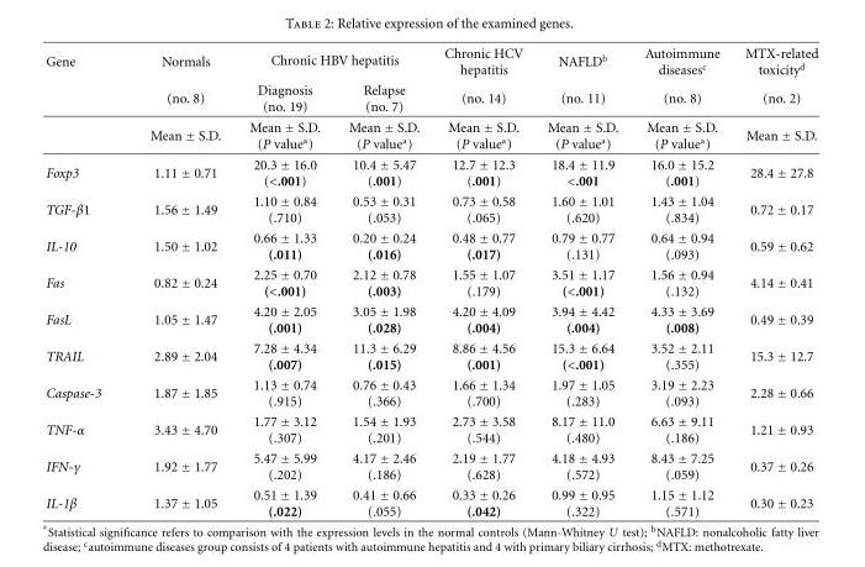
<table><thead><tr><td rowspan="2">Gene</td><td rowspan="2">Normals (no. 8)</td><td colspan="2">Chronic HBV hepatitis</td><td rowspan="2">Chronic HCV hepatitis (no. 14)</td><td rowspan="2">NAFLDb (no. 11)</td><td rowspan="2">Autoimmune diseasesc (no. 8)</td><td rowspan="2">MTX-related toxicityd (no. 2)</td></tr><tr><td>Diagnosis (no. 19)</td><td>Relapse (no. 7)</td></tr></thead><tbody><tr><td></td><td>Mean ± S.D.</td><td>Mean ± S.D. (P valuea)</td><td>Mean ± S.D. (P valuea)</td><td>Mean ± S.D. (P valuea)</td><td>Mean ± S.D. (P valuea)</td><td>Mean ± S.D. (P valuea)</td><td>Mean ± S.D.</td></tr><tr><td>Foxp3</td><td>1.11 ± 0.71</td><td>20.3 ± 16.0 (&lt;.001)</td><td>10.4 ± 5.47 (.001)</td><td>12.7 ± 12.3 (.001)</td><td>18.4 ± 11.9 &lt;.001</td><td>16.0 ± 15.2 (.001)</td><td>28.4 ± 27.8</td></tr><tr><td>TGF-β1</td><td>1.56 ± 1.49</td><td>1.10 ± 0.84 (.710)</td><td>0.53 ± 0.31 (.053)</td><td>0.73 ± 0.58 (.065)</td><td>1.60 ± 1.01 (.620)</td><td>1.43 ± 1.04 (.834)</td><td>0.72 ± 0.17</td></tr><tr><td>IL-10</td><td>1.50 ± 1.02</td><td>0.66 ± 1.33 (.011)</td><td>0.20 ± 0.24 (.016)</td><td>0.48 ± 0.77 (.017)</td><td>0.79 ± 0.77 (.131)</td><td>0.64 ± 0.94 (.093)</td><td>0.59 ± 0.62</td></tr><tr><td>Fas</td><td>0.82 ± 0.24</td><td>2.25 ± 0.70 (&lt;.001)</td><td>2.12 ± 0.78 (.003)</td><td>1.55 ± 1.07 (.179)</td><td>3.51 ± 1.17 (&lt;.001)</td><td>1.56 ± 0.94 (.132)</td><td>4.14 ± 0.41</td></tr><tr><td>FasL</td><td>1.05 ± 1.47</td><td>4.20 ± 2.05 (.001)</td><td>3.05 ± 1.98 (.028)</td><td>4.20 ± 4.09 (.004)</td><td>3.94 ± 4.42 (.004)</td><td>4.33 ± 3.69 (.008)</td><td>0.49 ± 0.39</td></tr><tr><td>TRAIL</td><td>2.89 ± 2.04</td><td>7.28 ± 4.34 (.007)</td><td>11.3 ± 6.29 (.015)</td><td>8.86 ± 4.56 (.001)</td><td>15.3 ± 6.64 (&lt;.001)</td><td>3.52 ± 2.11 (.355)</td><td>15.3 ± 12.7</td></tr><tr><td>Caspase-3</td><td>1.87 ± 1.85</td><td>1.13 ± 0.74 (.915)</td><td>0.76 ± 0.43 (.366)</td><td>1.66 ± 1.34 (.700)</td><td>1.97 ± 1.05 (.283)</td><td>3.19 ± 2.23 (.093)</td><td>2.28 ± 0.66</td></tr><tr><td>TNF-α</td><td>3.43 ± 4.70</td><td>1.77 ± 3.12 (.307)</td><td>1.54 ± 1.93 (.201)</td><td>2.73 ± 3.58 (.544)</td><td>8.17 ± 11.0 (.480)</td><td>6.63 ± 9.11 (.186)</td><td>1.21 ± 0.93</td></tr><tr><td>IFN-γ</td><td>1.92 ± 1.77</td><td>5.47 ± 5.99 (.202)</td><td>4.17 ± 2.46 (.186)</td><td>2.19 ± 1.77 (.628)</td><td>4.18 ± 4.93 (.572)</td><td>8.43 ± 7.25 (.059)</td><td>0.37 ± 0.26</td></tr><tr><td>IL-1β</td><td>1.37 ± 1.05</td><td>0.51 ± 1.39 (.022)</td><td>0.41 ± 0.66 (.055)</td><td>0.33 ± 0.26 (.042)</td><td>0.99 ± 0.95 (.322)</td><td>1.15 ± 1.12 (.571)</td><td>0.30 ± 0.23</td></tr></tbody></table>